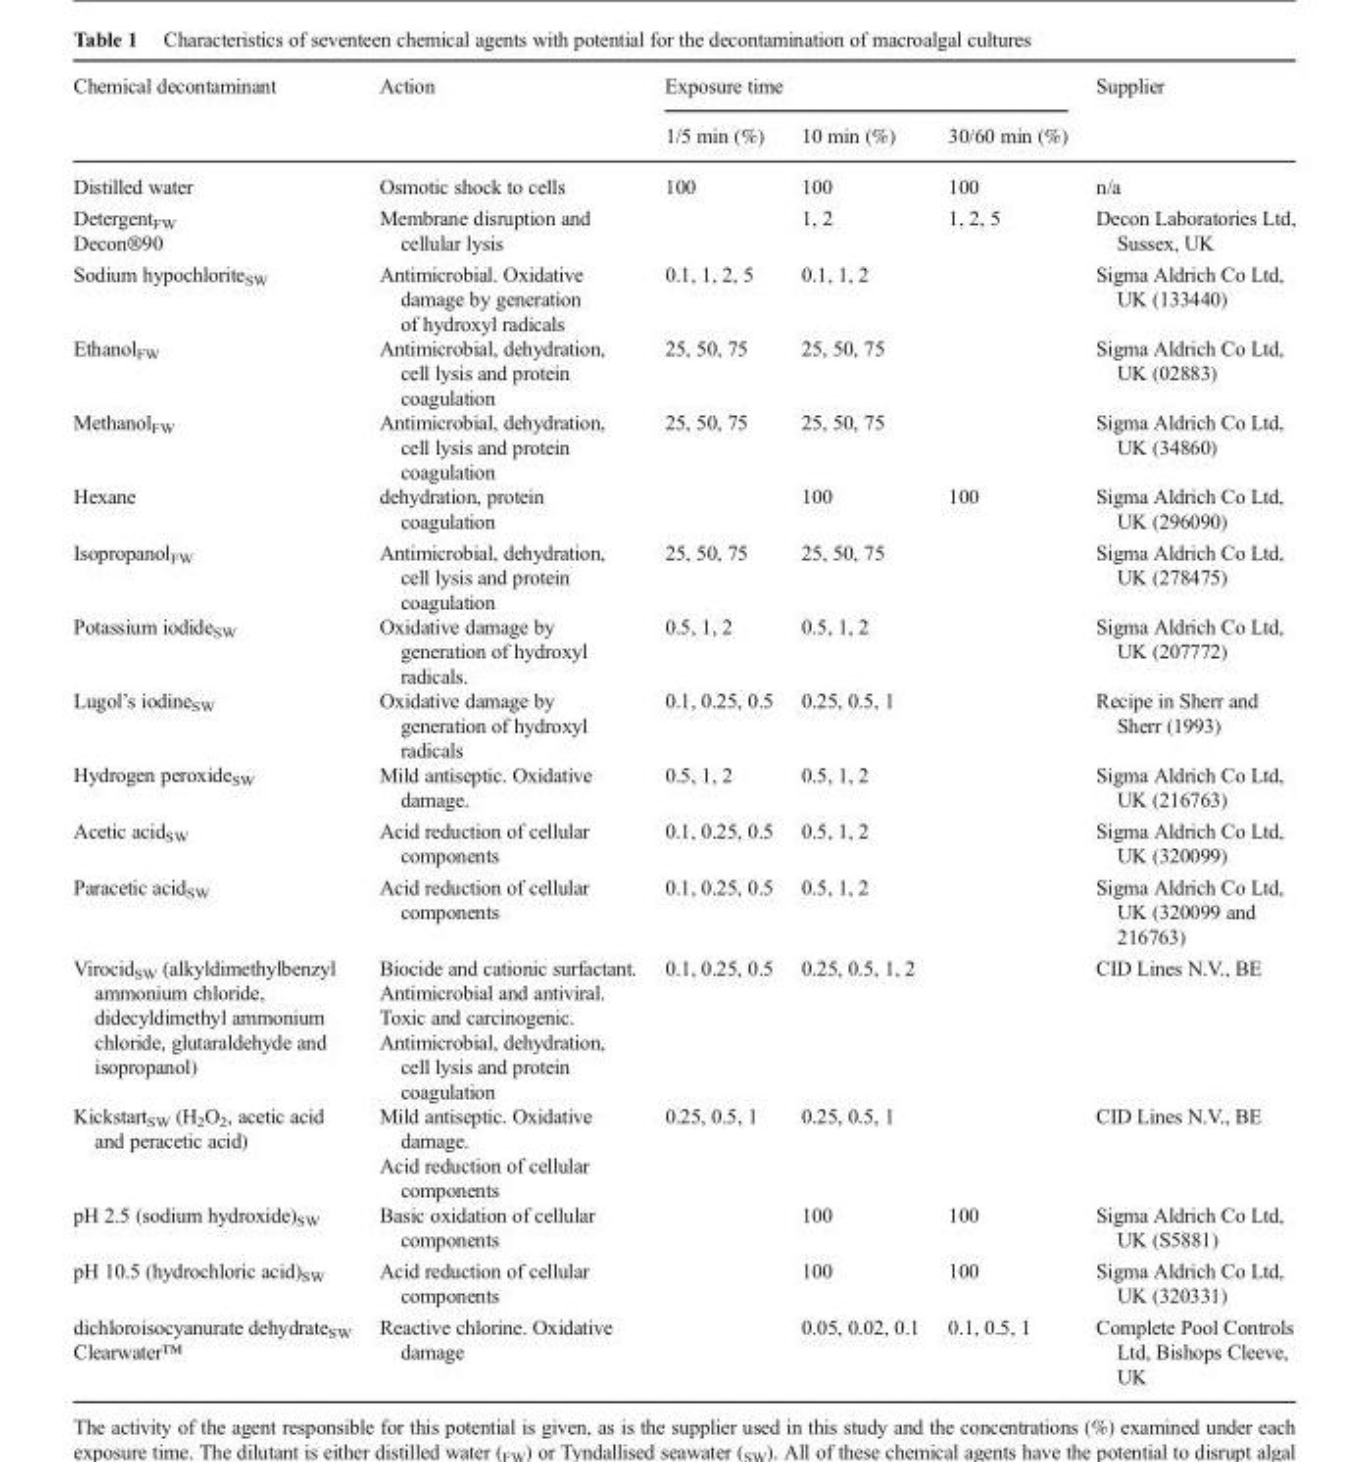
<table><thead><tr><td rowspan="2">Chemical decontaminant</td><td rowspan="2">Action</td><td colspan="3">Exposure time</td><td rowspan="2">Supplier</td></tr><tr><td>1/5 min (%)</td><td>10 min (%)</td><td>30/60 min (%)</td></tr></thead><tbody><tr><td>Distilled water</td><td>Osmotic shock to cells</td><td>100</td><td>100</td><td>100</td><td>n/a</td></tr><tr><td>Detergent<sub>FW</sub> Decon®90</td><td>Membrane disruption and cellular lysis</td><td></td><td>1, 2</td><td>1, 2, 5</td><td>Decon Laboratories Ltd, Sussex, UK</td></tr><tr><td>Sodium hypochlorite<sub>SW</sub></td><td>Antimicrobial. Oxidative damage by generation of hydroxyl radicals</td><td>0.1, 1, 2, 5</td><td>0.1, 1, 2</td><td></td><td>Sigma Aldrich Co Ltd, UK (133440)</td></tr><tr><td>Ethanol<sub>FW</sub></td><td>Antimicrobial, dehydration, cell lysis and protein coagulation</td><td>25, 50, 75</td><td>25, 50, 75</td><td></td><td>Sigma Aldrich Co Ltd, UK (02883)</td></tr><tr><td>Methanol<sub>FW</sub></td><td>Antimicrobial, dehydration, cell lysis and protein coagulation</td><td>25, 50, 75</td><td>25, 50, 75</td><td></td><td>Sigma Aldrich Co Ltd, UK (34860)</td></tr><tr><td>Hexane</td><td>dehydration, protein coagulation</td><td></td><td>100</td><td>100</td><td>Sigma Aldrich Co Ltd, UK (296090)</td></tr><tr><td>Isopropanol<sub>FW</sub></td><td>Antimicrobial, dehydration, cell lysis and protein coagulation</td><td>25, 50, 75</td><td>25, 50, 75</td><td></td><td>Sigma Aldrich Co Ltd, UK (278475)</td></tr><tr><td>Potassium iodide<sub>SW</sub></td><td>Oxidative damage by generation of hydroxyl radicals.</td><td>0.5, 1, 2</td><td>0.5, 1, 2</td><td></td><td>Sigma Aldrich Co Ltd, UK (207772)</td></tr><tr><td>Lugol’s iodine<sub>SW</sub></td><td>Oxidative damage by generation of hydroxyl radicals</td><td>0.1, 0.25, 0.5</td><td>0.25, 0.5, 1</td><td></td><td>Recipe in Sherr and Sherr (1993)</td></tr><tr><td>Hydrogen peroxide<sub>SW</sub></td><td>Mild antiseptic. Oxidative damage.</td><td>0.5, 1, 2</td><td>0.5, 1, 2</td><td></td><td>Sigma Aldrich Co Ltd, UK (216763)</td></tr><tr><td>Acetic acid<sub>SW</sub></td><td>Acid reduction of cellular components</td><td>0.1, 0.25, 0.5</td><td>0.5, 1, 2</td><td></td><td>Sigma Aldrich Co Ltd, UK (320099)</td></tr><tr><td>Paracetic acid<sub>SW</sub></td><td>Acid reduction of cellular components</td><td>0.1, 0.25, 0.5</td><td>0.5, 1, 2</td><td></td><td>Sigma Aldrich Co Ltd, UK (320099 and 216763)</td></tr><tr><td>Virocid<sub>SW</sub> (alkyldimethylbenzyl ammonium chloride, didecyldimethyl ammonium chloride, glutaraldehyde and isopropanol)</td><td>Biocide and cationic surfactant. Antimicrobial and antiviral. Toxic and carcinogenic. Antimicrobial, dehydration, cell lysis and protein coagulation</td><td>0.1, 0.25, 0.5</td><td>0.25, 0.5, 1, 2</td><td></td><td>CID Lines N.V., BE</td></tr><tr><td>Kickstart<sub>SW</sub> (H<sub>2</sub>O<sub>2</sub>, acetic acid and peracetic acid)</td><td>Mild antiseptic. Oxidative damage. Acid reduction of cellular components</td><td>0.25, 0.5, 1</td><td>0.25, 0.5, 1</td><td></td><td>CID Lines N.V., BE</td></tr><tr><td>pH 2.5 (sodium hydroxide)<sub>SW</sub></td><td>Basic oxidation of cellular components</td><td></td><td>100</td><td>100</td><td>Sigma Aldrich Co Ltd, UK (S5881)</td></tr><tr><td>pH 10.5 (hydrochloric acid)<sub>SW</sub></td><td>Acid reduction of cellular components</td><td></td><td>100</td><td>100</td><td>Sigma Aldrich Co Ltd, UK (320331)</td></tr><tr><td>dichloroisocyanurate dehydrate<sub>SW</sub> Clearwater™</td><td>Reactive chlorine. Oxidative damage</td><td></td><td>0.05, 0.02, 0.1</td><td>0.1, 0.5, 1</td><td>Complete Pool Controls Ltd, Bishops Cleeve, UK</td></tr></tbody></table>